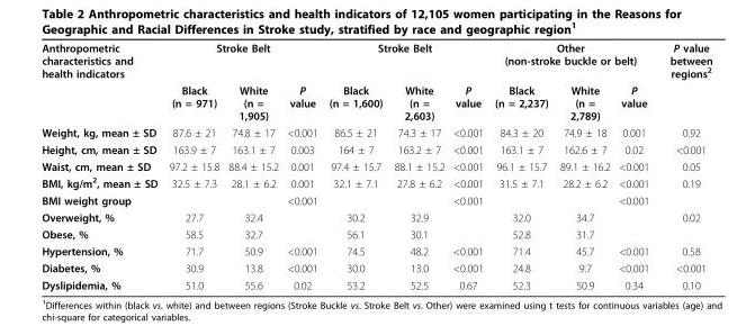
<table><tbody><tr><td rowspan="2">Anthropometric characteristics and health indicators</td><td colspan="3">Stroke Belt</td><td colspan="3">Stroke Belt</td><td colspan="3">Other (non-stroke buckle or belt)</td><td>P value between regions<sup>2</sup></td></tr><tr><td>Black (n = 971)</td><td>White (n = 1,905)</td><td>P value</td><td>Black (n = 1,600)</td><td>White (n = 2,603)</td><td>P value</td><td>Black (n = 2,237)</td><td>White (n = 2,789)</td><td>P value</td><td></td></tr><tr><td>Weight, kg, mean ± SD</td><td>87.6 ± 21</td><td>74.8 ± 17</td><td>&lt;0.001</td><td>86.5 ± 21</td><td>74.3 ± 17</td><td>&lt;0.001</td><td>84.3 ± 20</td><td>74.9 ± 18</td><td>0.001</td><td>0.92</td></tr><tr><td>Height, cm, mean ± SD</td><td>163.9 ± 7</td><td>163.1 ± 7</td><td>0.003</td><td>164 ± 7</td><td>163.2 ± 7</td><td>&lt;0.001</td><td>163.1 ± 7</td><td>162.6 ± 7</td><td>0.02</td><td>&lt;0.001</td></tr><tr><td>Waist, cm, mean ± SD</td><td>97.2 ± 15.8</td><td>88.4 ± 15.2</td><td>0.001</td><td>97.4 ± 15.7</td><td>88.1 ± 15.2</td><td>&lt;0.001</td><td>96.1 ± 15.7</td><td>89.1 ± 16.2</td><td>&lt;0.001</td><td>0.05</td></tr><tr><td>BMI, kg/m<sup>2</sup>, mean ± SD</td><td>32.5 ± 7.3</td><td>28.1 ± 6.2</td><td>0.001</td><td>32.1 ± 7.1</td><td>27.8 ± 6.2</td><td>&lt;0.001</td><td>31.5 ± 7.1</td><td>28.2 ± 6.2</td><td>&lt;0.001</td><td>0.19</td></tr><tr><td>BMI weight group</td><td></td><td></td><td>&lt;0.001</td><td></td><td></td><td>&lt;0.001</td><td></td><td></td><td>&lt;0.001</td><td></td></tr><tr><td>Overweight, %</td><td>27.7</td><td>32.4</td><td></td><td>30.2</td><td>32.9</td><td></td><td>32.0</td><td>34.7</td><td></td><td>0.02</td></tr><tr><td>Obese, %</td><td>58.5</td><td>32.7</td><td></td><td>56.1</td><td>30.1</td><td></td><td>52.8</td><td>31.7</td><td></td><td></td></tr><tr><td>Hypertension, %</td><td>71.7</td><td>50.9</td><td>&lt;0.001</td><td>74.5</td><td>48.2</td><td>&lt;0.001</td><td>71.4</td><td>45.7</td><td>&lt;0.001</td><td>0.58</td></tr><tr><td>Diabetes, %</td><td>30.9</td><td>13.8</td><td>&lt;0.001</td><td>30.0</td><td>13.0</td><td>&lt;0.001</td><td>24.8</td><td>9.7</td><td>&lt;0.001</td><td>&lt;0.001</td></tr><tr><td>Dyslipidemia, %</td><td>51.0</td><td>55.6</td><td>0.02</td><td>53.2</td><td>52.5</td><td>0.67</td><td>52.3</td><td>50.9</td><td>0.34</td><td>0.10</td></tr></tbody></table>